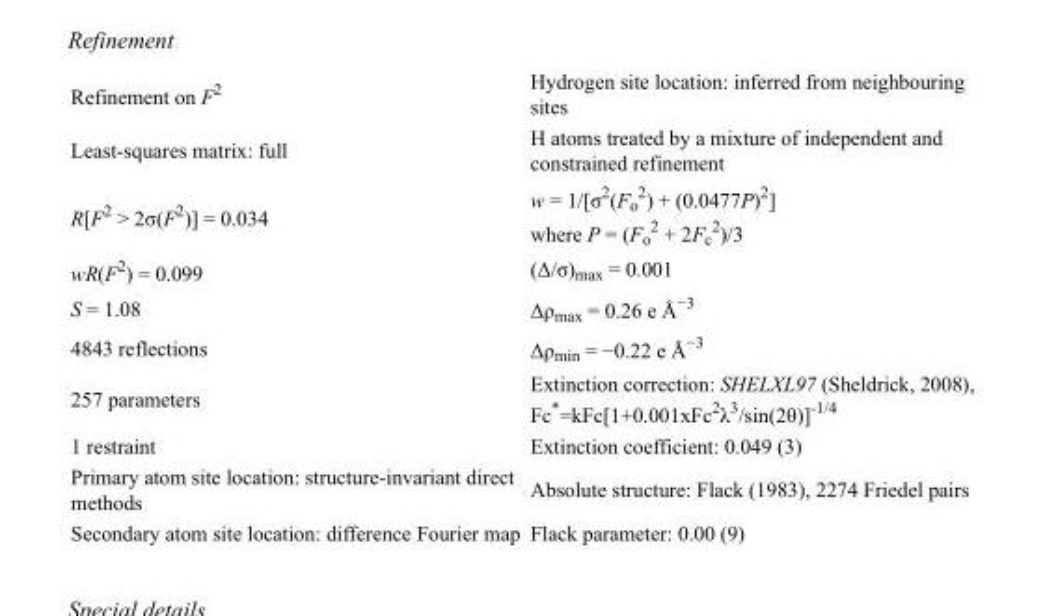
<table><tbody><tr><td>Refinement on F<sup>2</sup></td><td>Hydrogen site location: inferred from neighbouring sites</td></tr><tr><td>Least-squares matrix: full</td><td>H atoms treated by a mixture of independent and constrained refinement</td></tr><tr><td>R[F<sup>2</sup> &gt; 2σ(F<sup>2</sup>)] = 0.034</td><td>w = 1/[σ<sup>2</sup>(F<sub>o</sub> <sup>2</sup>) + (0.0477P)<sup>2</sup>] where P = (F<sub>o</sub> <sup>2</sup> + 2F<sub>c</sub> <sup>2</sup>)/3</td></tr><tr><td>wR(F<sup>2</sup>) = 0.099</td><td>(Δ/σ)<sub>max</sub> = 0.001</td></tr><tr><td>S = 1.08</td><td>Δρ<sub>max</sub> = 0.26 e Å<sup>−3</sup></td></tr><tr><td>4843 reflections</td><td>Δρ<sub>min</sub> = −0.22 e Å<sup>−3</sup></td></tr><tr><td>257 parameters</td><td>Extinction correction: SHELXL97 (Sheldrick, 2008), Fc*=kFc[1+0.001xFc<sup>2</sup>λ<sup>3</sup>/sin(2θ)]<sup>-1/4</sup></td></tr><tr><td>1 restraint</td><td>Extinction coefficient: 0.049 (3)</td></tr><tr><td>Primary atom site location: structure-invariant direct methods</td><td>Absolute structure: Flack (1983), 2274 Friedel pairs</td></tr><tr><td>Secondary atom site location: difference Fourier map</td><td>Flack parameter: 0.00 (9)</td></tr></tbody></table>